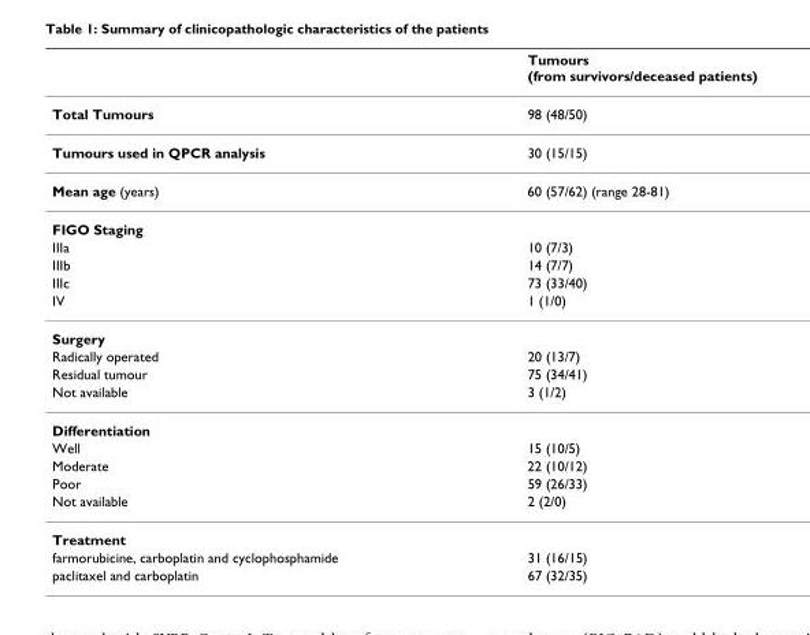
<table><thead><tr><td></td><td>Tumours (from survivors/deceased patients)</td></tr></thead><tbody><tr><td>Total Tumours</td><td>98 (48/50)</td></tr><tr><td>Tumours used in QPCR analysis</td><td>30 (15/15)</td></tr><tr><td>Mean age (years)</td><td>60 (57/62) (range 28-81)</td></tr><tr><td colspan="2">FIGO Staging</td></tr><tr><td>IIIa</td><td>10 (7/3)</td></tr><tr><td>IIIb</td><td>14 (7/7)</td></tr><tr><td>IIIc</td><td>73 (33/40)</td></tr><tr><td>IV</td><td>1 (1/0)</td></tr><tr><td colspan="2">Surgery</td></tr><tr><td>Radically operated</td><td>20 (13/7)</td></tr><tr><td>Residual tumour</td><td>75 (34/41)</td></tr><tr><td>Not available</td><td>3 (1/2)</td></tr><tr><td colspan="2">Differentiation</td></tr><tr><td>Well</td><td>15 (10/5)</td></tr><tr><td>Moderate</td><td>22 (10/12)</td></tr><tr><td>Poor</td><td>59 (26/33)</td></tr><tr><td>Not available</td><td>2 (2/0)</td></tr><tr><td colspan="2">Treatment</td></tr><tr><td>farmorubicine, carboplatin and cyclophosphamide</td><td>31 (16/15)</td></tr><tr><td>paclitaxel and carboplatin</td><td>67 (32/35)</td></tr></tbody></table>